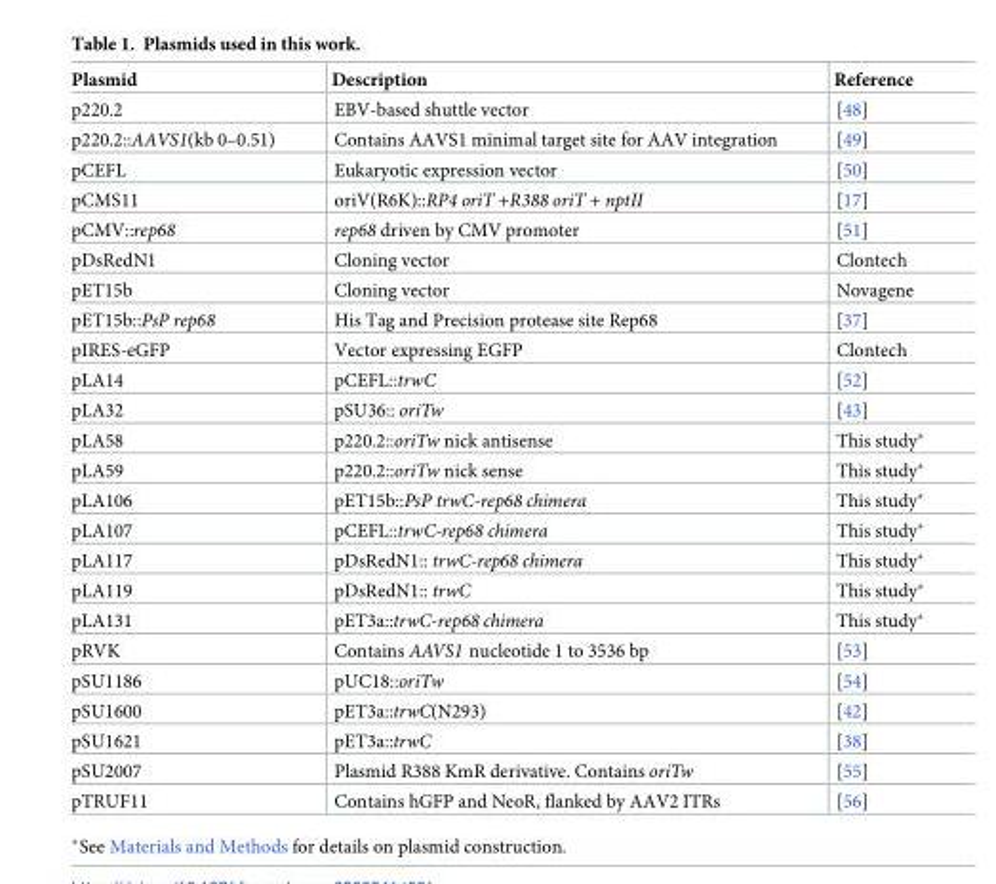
<table><thead><tr><td>Plasmid</td><td>Description</td><td>Reference</td></tr></thead><tbody><tr><td>p220.2</td><td>EBV-based shuttle vector</td><td>[48]</td></tr><tr><td>p220.2::AAVS1(kb 0–0.51)</td><td>Contains AAVS1 minimal target site for AAV integration</td><td>[49]</td></tr><tr><td>pCEFL</td><td>Eukaryotic expression vector</td><td>[50]</td></tr><tr><td>pCMS11</td><td>oriV(R6K)::RP4 oriT +R388 oriT + nptII</td><td>[17]</td></tr><tr><td>pCMV::rep68</td><td>rep68 driven by CMV promoter</td><td>[51]</td></tr><tr><td>pDsRedN1</td><td>Cloning vector</td><td>Clontech</td></tr><tr><td>pET15b</td><td>Cloning vector</td><td>Novagene</td></tr><tr><td>pET15b::PsP rep68</td><td>His Tag and Precision protease site Rep68</td><td>[37]</td></tr><tr><td>pIRES-eGFP</td><td>Vector expressing EGFP</td><td>Clontech</td></tr><tr><td>pLA14</td><td>pCEFL::trwC</td><td>[52]</td></tr><tr><td>pLA32</td><td>pSU36:: oriTw</td><td>[43]</td></tr><tr><td>pLA58</td><td>p220.2::oriTw nick antisense</td><td>This study*</td></tr><tr><td>pLA59</td><td>p220.2::oriTw nick sense</td><td>This study*</td></tr><tr><td>pLA106</td><td>pET15b::PsP trwC-rep68 chimera</td><td>This study*</td></tr><tr><td>pLA107</td><td>pCEFL::trwC-rep68 chimera</td><td>This study*</td></tr><tr><td>pLA117</td><td>pDsRedN1:: trwC-rep68 chimera</td><td>This study*</td></tr><tr><td>pLA119</td><td>pDsRedN1:: trwC</td><td>This study*</td></tr><tr><td>pLA131</td><td>pET3a::trwC-rep68 chimera</td><td>This study*</td></tr><tr><td>pRVK</td><td>Contains AAVS1 nucleotide 1 to 3536 bp</td><td>[53]</td></tr><tr><td>pSU1186</td><td>pUC18::oriTw</td><td>[54]</td></tr><tr><td>pSU1600</td><td>pET3a::trwC(N293)</td><td>[42]</td></tr><tr><td>pSU1621</td><td>pET3a::trwC</td><td>[38]</td></tr><tr><td>pSU2007</td><td>Plasmid R388 KmR derivative. Contains oriTw</td><td>[55]</td></tr><tr><td>pTRUF11</td><td>Contains hGFP and NeoR, flanked by AAV2 ITRs</td><td>[56]</td></tr></tbody></table>